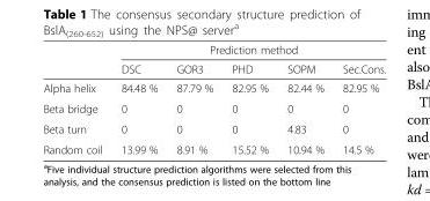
<table><thead><tr><td rowspan="2"></td><td colspan="5">Prediction method</td></tr><tr><td>DSC</td><td>GOR3</td><td>PHD</td><td>SOPM</td><td>Sec.Cons.</td></tr></thead><tbody><tr><td>Alpha helix</td><td>84.48 %</td><td>87.79 %</td><td>82.95 %</td><td>82.44 %</td><td>82.95 %</td></tr><tr><td>Beta bridge</td><td>0</td><td>0</td><td>0</td><td>0</td><td>0</td></tr><tr><td>Beta turn</td><td>0</td><td>0</td><td>0</td><td>4.83</td><td>0</td></tr><tr><td>Random coil</td><td>13.99 %</td><td>8.91 %</td><td>15.52 %</td><td>10.94 %</td><td>14.5 %</td></tr></tbody></table>